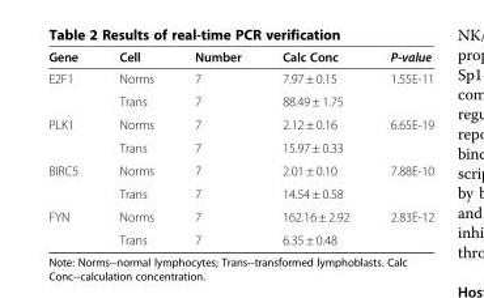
<table><thead><tr><td>Gene</td><td>Cell</td><td>Number</td><td>Calc Conc</td><td>P-value</td></tr></thead><tbody><tr><td rowspan="2">E2F1</td><td>Norms</td><td>7</td><td>7.97 ± 0.15</td><td rowspan="2">1.55E-11</td></tr><tr><td>Trans</td><td>7</td><td>88.49 ± 1.75</td></tr><tr><td rowspan="2">PLK1</td><td>Norms</td><td>7</td><td>2.12 ± 0.16</td><td rowspan="2">6.65E-19</td></tr><tr><td>Trans</td><td>7</td><td>15.97 ± 0.33</td></tr><tr><td rowspan="2">BIRC5</td><td>Norms</td><td>7</td><td>2.01 ± 0.10</td><td rowspan="2">7.88E-10</td></tr><tr><td>Trans</td><td>7</td><td>14.54 ± 0.58</td></tr><tr><td rowspan="2">FYN</td><td>Norms</td><td>7</td><td>162.16 ± 2.92</td><td>2.83E-12</td></tr><tr><td>Trans</td><td>7</td><td>6.35 ± 0.48</td><td></td></tr></tbody></table>